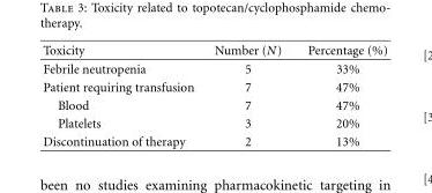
<table><thead><tr><td>Toxicity</td><td>Number (N)</td><td>Percentage (%)</td></tr></thead><tbody><tr><td>Febrile neutropenia</td><td>5</td><td>33%</td></tr><tr><td>Patient requiring transfusion</td><td>7</td><td>47%</td></tr><tr><td>Blood</td><td>7</td><td>47%</td></tr><tr><td>Platelets</td><td>3</td><td>20%</td></tr><tr><td>Discontinuation of therapy</td><td>2</td><td>13%</td></tr></tbody></table>